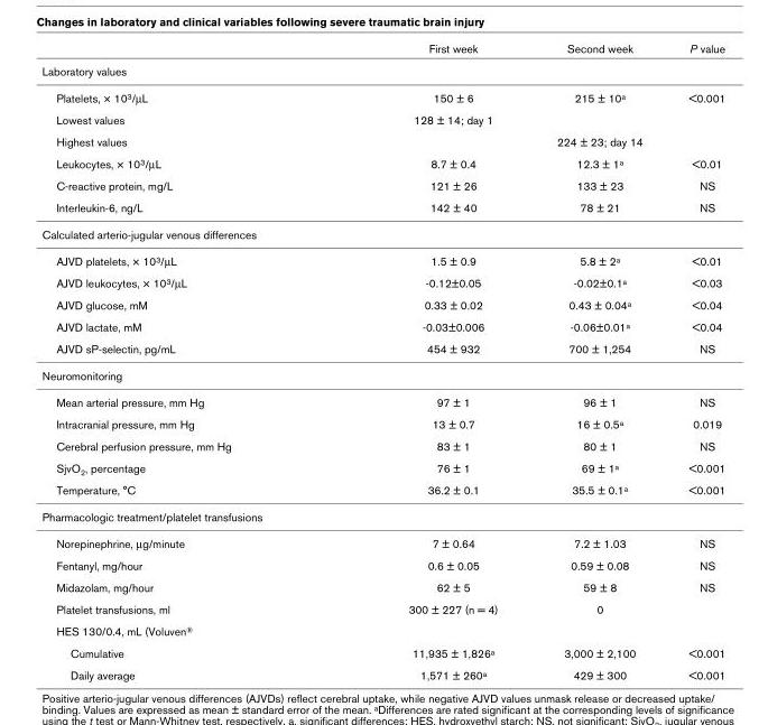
<table><thead><tr><td></td><td>First week</td><td>Second week</td><td>P value</td></tr></thead><tbody><tr><td colspan="4">Laboratory values</td></tr><tr><td>Platelets, × 10<sup>3</sup>/μL</td><td>150 ± 6</td><td>215 ± 10<sup>a</sup></td><td>&lt;0.001</td></tr><tr><td>Lowest values</td><td>128 ± 14; day 1</td><td></td><td></td></tr><tr><td>Highest values</td><td></td><td>224 ± 23; day 14</td><td></td></tr><tr><td>Leukocytes, × 10<sup>3</sup>/μL</td><td>8.7 ± 0.4</td><td>12.3 ± 1<sup>a</sup></td><td>&lt;0.01</td></tr><tr><td>C-reactive protein, mg/L</td><td>121 ± 26</td><td>133 ± 23</td><td>NS</td></tr><tr><td>Interleukin-6, ng/L</td><td>142 ± 40</td><td>78 ± 21</td><td>NS</td></tr><tr><td colspan="4">Calculated arterio-jugular venous differences</td></tr><tr><td>AJVD platelets, × 10<sup>3</sup>/μL</td><td>1.5 ± 0.9</td><td>5.8 ± 2<sup>a</sup></td><td>&lt;0.01</td></tr><tr><td>AJVD leukocytes, × 10<sup>3</sup>/μL</td><td>-0.12±0.05</td><td>-0.02±0.1<sup>a</sup></td><td>&lt;0.03</td></tr><tr><td>AJVD glucose, mM</td><td>0.33 ± 0.02</td><td>0.43 ± 0.04<sup>a</sup></td><td>&lt;0.04</td></tr><tr><td>AJVD lactate, mM</td><td>-0.03±0.006</td><td>-0.06±0.01<sup>a</sup></td><td>&lt;0.04</td></tr><tr><td>AJVD sP-selectin, pg/mL</td><td>454 ± 932</td><td>700 ± 1,254</td><td>NS</td></tr><tr><td colspan="4">Neuromonitoring</td></tr><tr><td>Mean arterial pressure, mm Hg</td><td>97 ± 1</td><td>96 ± 1</td><td>NS</td></tr><tr><td>Intracranial pressure, mm Hg</td><td>13 ± 0.7</td><td>16 ± 0.5<sup>a</sup></td><td>0.019</td></tr><tr><td>Cerebral perfusion pressure, mm Hg</td><td>83 ± 1</td><td>80 ± 1</td><td>NS</td></tr><tr><td>SjvO<sub>2</sub>, percentage</td><td>76 ± 1</td><td>69 ± 1<sup>a</sup></td><td>&lt;0.001</td></tr><tr><td>Temperature, °C</td><td>36.2 ± 0.1</td><td>35.5 ± 0.1<sup>a</sup></td><td>&lt;0.001</td></tr><tr><td colspan="4">Pharmacologic treatment/platelet transfusions</td></tr><tr><td>Norepinephrine, μg/minute</td><td>7 ± 0.64</td><td>7.2 ± 1.03</td><td>NS</td></tr><tr><td>Fentanyl, mg/hour</td><td>0.6 ± 0.05</td><td>0.59 ± 0.08</td><td>NS</td></tr><tr><td>Midazolam, mg/hour</td><td>62 ± 5</td><td>59 ± 8</td><td>NS</td></tr><tr><td>Platelet transfusions, ml</td><td>300 ± 227 (n = 4)</td><td>0</td><td></td></tr><tr><td colspan="4">HES 130/0.4, mL (Voluven<sup>®</sup></td></tr><tr><td>Cumulative</td><td>11,935 ± 1,826<sup>a</sup></td><td>3,000 ± 2,100</td><td>&lt;0.001</td></tr><tr><td>Daily average</td><td>1,571 ± 260<sup>a</sup></td><td>429 ± 300</td><td>&lt;0.001</td></tr></tbody></table>